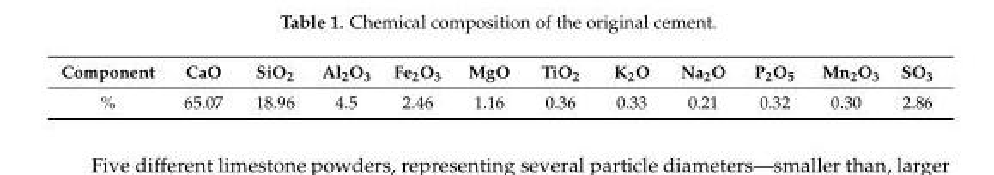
<table><thead><tr><td>Component</td><td>CaO</td><td>SiO<sub>2</sub></td><td>Al<sub>2</sub>O<sub>3</sub></td><td>Fe<sub>2</sub>O<sub>3</sub></td><td>MgO</td><td>TiO<sub>2</sub></td><td>K<sub>2</sub>O</td><td>Na<sub>2</sub>O</td><td>P<sub>2</sub>O<sub>5</sub></td><td>Mn<sub>2</sub>O<sub>3</sub></td><td>SO<sub>3</sub></td></tr></thead><tbody><tr><td>%</td><td>65.07</td><td>18.96</td><td>4.5</td><td>2.46</td><td>1.16</td><td>0.36</td><td>0.33</td><td>0.21</td><td>0.32</td><td>0.30</td><td>2.86</td></tr></tbody></table>